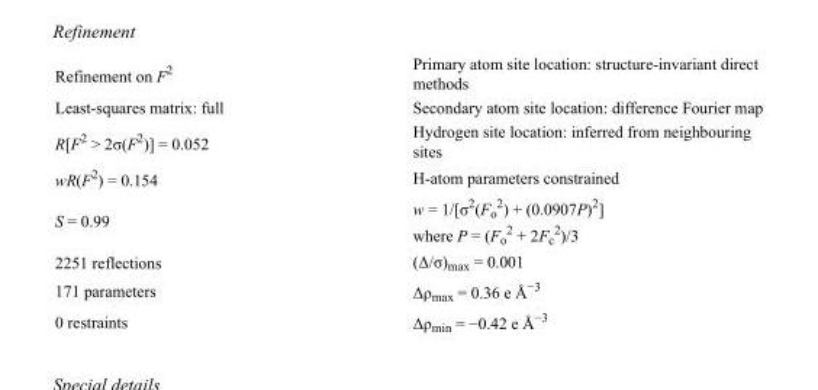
<table><tbody><tr><td>Refinement on F<sup>2</sup></td><td>Primary atom site location: structure-invariant direct methods</td></tr><tr><td>Least-squares matrix: full</td><td>Secondary atom site location: difference Fourier map</td></tr><tr><td>R[F<sup>2</sup> &gt; 2σ(F<sup>2</sup>)] = 0.052</td><td>Hydrogen site location: inferred from neighbouring sites</td></tr><tr><td>wR(F<sup>2</sup>) = 0.154</td><td>H-atom parameters constrained</td></tr><tr><td>S = 0.99</td><td>w = 1/[σ<sup>2</sup>(F<sub>o</sub> <sup>2</sup>) + (0.0907P)<sup>2</sup>] where P = (F<sub>o</sub> <sup>2</sup> + 2F<sub>c</sub> <sup>2</sup>)/3</td></tr><tr><td>2251 reflections</td><td>(Δ/σ)<sub>max</sub> = 0.001</td></tr><tr><td>171 parameters</td><td>Δρ<sub>max</sub> = 0.36 e Å<sup>−3</sup></td></tr><tr><td>0 restraints</td><td>Δρ<sub>min</sub> = −0.42 e Å<sup>−3</sup></td></tr></tbody></table>